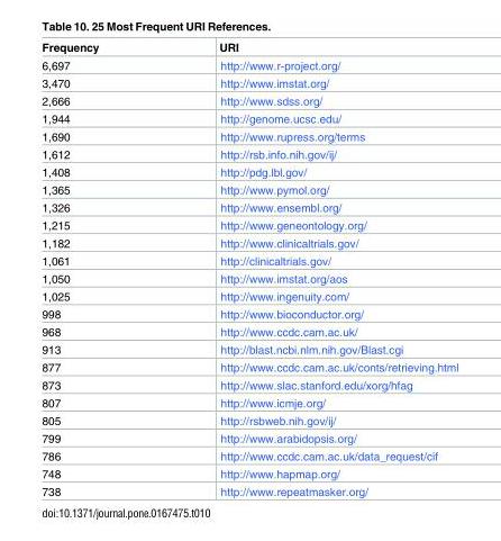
<table><thead><tr><td>Frequency</td><td>URI</td></tr></thead><tbody><tr><td>6,697</td><td>http://www.r-project.org/</td></tr><tr><td>3,470</td><td>http://www.imstat.org/</td></tr><tr><td>2,666</td><td>http://www.sdss.org/</td></tr><tr><td>1,944</td><td>http://genome.ucsc.edu/</td></tr><tr><td>1,690</td><td>http://www.rupress.org/terms</td></tr><tr><td>1,612</td><td>http://rsb.info.nih.gov/ij/</td></tr><tr><td>1,408</td><td>http://pdg.lbl.gov/</td></tr><tr><td>1,365</td><td>http://www.pymol.org/</td></tr><tr><td>1,326</td><td>http://www.ensembl.org/</td></tr><tr><td>1,215</td><td>http://www.geneontology.org/</td></tr><tr><td>1,182</td><td>http://www.clinicaltrials.gov/</td></tr><tr><td>1,061</td><td>http://clinicaltrials.gov/</td></tr><tr><td>1,050</td><td>http://www.imstat.org/aos</td></tr><tr><td>1,025</td><td>http://www.ingenuity.com/</td></tr><tr><td>998</td><td>http://www.bioconductor.org/</td></tr><tr><td>968</td><td>http://www.ccdc.cam.ac.uk/</td></tr><tr><td>913</td><td>http://blast.ncbi.nlm.nih.gov/Blast.cgi</td></tr><tr><td>877</td><td>http://www.ccdc.cam.ac.uk/conts/retrieving.html</td></tr><tr><td>873</td><td>http://www.slac.stanford.edu/xorg/hfag</td></tr><tr><td>807</td><td>http://www.icmje.org/</td></tr><tr><td>805</td><td>http://rsbweb.nih.gov/ij/</td></tr><tr><td>799</td><td>http://www.arabidopsis.org/</td></tr><tr><td>786</td><td>http://www.ccdc.cam.ac.uk/data_request/cif</td></tr><tr><td>748</td><td>http://www.hapmap.org/</td></tr><tr><td>738</td><td>http://www.repeatmasker.org/</td></tr></tbody></table>